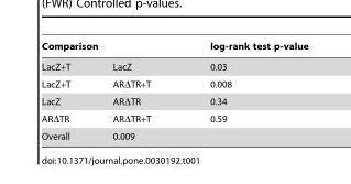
<table><thead><tr><td colspan="2">Comparison</td><td rowspan="2">log-rank test p-value 0.03</td></tr><tr><td>LacZ+T</td><td>LacZ</td></tr></thead><tbody><tr><td>LacZ+T</td><td>ARΔTR+T</td><td>0.008</td></tr><tr><td>LacZ</td><td>ARΔTR</td><td>0.34</td></tr><tr><td>ARΔTR</td><td>ARΔTR+T</td><td>0.59</td></tr><tr><td>Overall</td><td>0.009</td><td></td></tr></tbody></table>